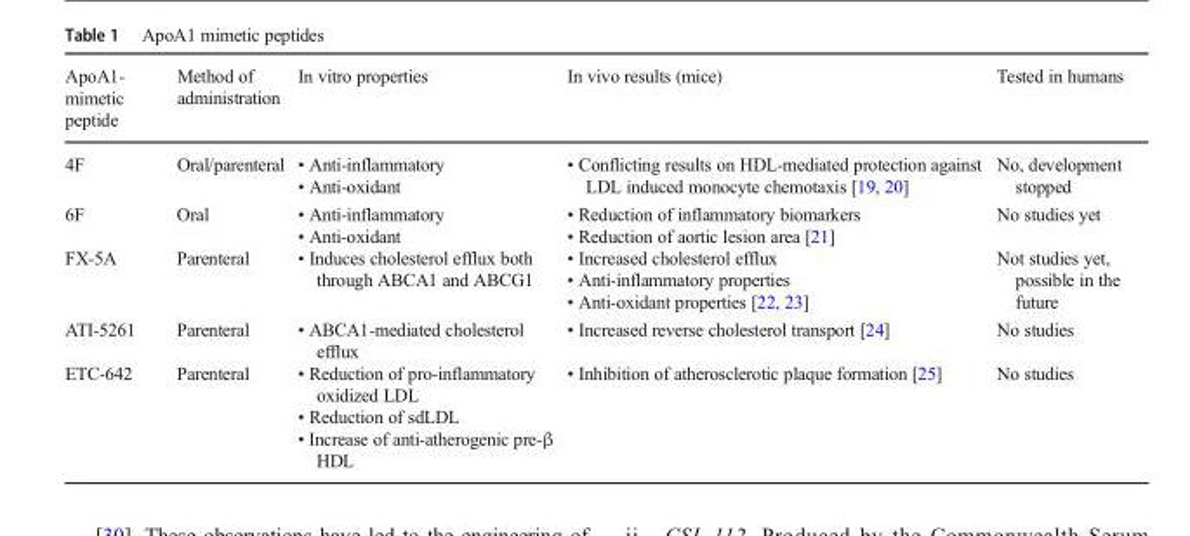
<table><thead><tr><td>ApoA1- mimetic peptide</td><td>Method of administration</td><td>In vitro properties</td><td>In vivo results (mice)</td><td>Tested in humans</td></tr></thead><tbody><tr><td>4F</td><td>Oral/parenteral</td><td>• Anti-inflammatory • Anti-oxidant</td><td>• Conflicting results on HDL-mediated protection against LDL induced monocyte chemotaxis [19, 20]</td><td>No, development stopped</td></tr><tr><td>6F</td><td>Oral</td><td>• Anti-inflammatory • Anti-oxidant</td><td>• Reduction of inflammatory biomarkers • Reduction of aortic lesion area [21]</td><td>No studies yet</td></tr><tr><td>FX-5A</td><td>Parenteral</td><td>• Induces cholesterol efflux both through ABCA1 and ABCG1</td><td>• Increased cholesterol efflux • Anti-inflammatory properties • Anti-oxidant properties [22, 23]</td><td>Not studies yet, possible in the future</td></tr><tr><td>ATI-5261</td><td>Parenteral</td><td>• ABCA1-mediated cholesterol efflux</td><td>• Increased reverse cholesterol transport [24]</td><td>No studies</td></tr><tr><td>ETC-642</td><td>Parenteral</td><td>• Reduction of pro-inflammatory oxidized LDL • Reduction of sdLDL • Increase of anti-atherogenic pre-β HDL</td><td>• Inhibition of atherosclerotic plaque formation [25]</td><td>No studies</td></tr></tbody></table>